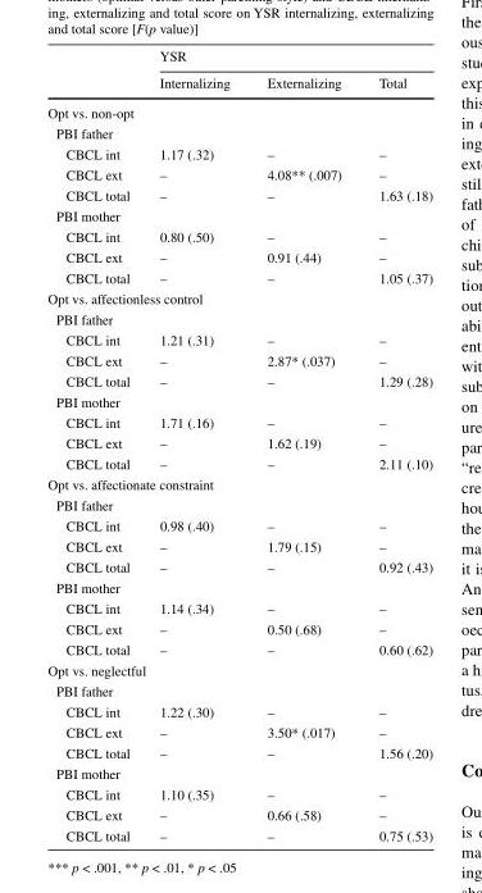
<table><thead><tr><td rowspan="2"></td><td colspan="3">YSR</td></tr><tr><td>Internalizing</td><td>Externalizing</td><td>Total</td></tr></thead><tbody><tr><td colspan="4">Opt vs. non-opt</td></tr><tr><td colspan="4">PBI father</td></tr><tr><td>CBCL int</td><td>1.17 (.32)</td><td>–</td><td>–</td></tr><tr><td>CBCL ext</td><td>–</td><td>4.08** (.007)</td><td>–</td></tr><tr><td>CBCL total</td><td>–</td><td>–</td><td>1.63 (.18)</td></tr><tr><td colspan="4">PBI mother</td></tr><tr><td>CBCL int</td><td>0.80 (.50)</td><td>–</td><td>–</td></tr><tr><td>CBCL ext</td><td>–</td><td>0.91 (.44)</td><td>–</td></tr><tr><td>CBCL total</td><td>–</td><td>–</td><td>1.05 (.37)</td></tr><tr><td colspan="4">Opt vs. affectionless control</td></tr><tr><td colspan="4">PBI father</td></tr><tr><td>CBCL int</td><td>1.21 (.31)</td><td>–</td><td>–</td></tr><tr><td>CBCL ext</td><td>–</td><td>2.87* (.037)</td><td>–</td></tr><tr><td>CBCL total</td><td>–</td><td>–</td><td>1.29 (.28)</td></tr><tr><td colspan="4">PBI mother</td></tr><tr><td>CBCL int</td><td>1.71 (.16)</td><td>–</td><td>–</td></tr><tr><td>CBCL ext</td><td>–</td><td>1.62 (.19)</td><td>–</td></tr><tr><td>CBCL total</td><td>–</td><td>–</td><td>2.11 (.10)</td></tr><tr><td colspan="4">Opt vs. affectionate constraint</td></tr><tr><td colspan="4">PBI father</td></tr><tr><td>CBCL int</td><td>0.98 (.40)</td><td>–</td><td>–</td></tr><tr><td>CBCL ext</td><td>–</td><td>1.79 (.15)</td><td>–</td></tr><tr><td>CBCL total</td><td>–</td><td>–</td><td>0.92 (.43)</td></tr><tr><td colspan="4">PBI mother</td></tr><tr><td>CBCL int</td><td>1.14 (.34)</td><td>–</td><td>–</td></tr><tr><td>CBCL ext</td><td>–</td><td>0.50 (.68)</td><td>–</td></tr><tr><td>CBCL total</td><td>–</td><td>–</td><td>0.60 (.62)</td></tr><tr><td colspan="4">Opt vs. neglectful</td></tr><tr><td colspan="4">PBI father</td></tr><tr><td>CBCL int</td><td>1.22 (.30)</td><td>–</td><td>–</td></tr><tr><td>CBCL ext</td><td>–</td><td>3.50* (.017)</td><td>–</td></tr><tr><td>CBCL total</td><td>–</td><td>–</td><td>1.56 (.20)</td></tr><tr><td colspan="4">PBI mother</td></tr><tr><td>CBCL int</td><td>1.10 (.35)</td><td>–</td><td>–</td></tr><tr><td>CBCL ext</td><td>–</td><td>0.66 (.58)</td><td>–</td></tr><tr><td>CBCL total</td><td>–</td><td>–</td><td>0.75 (.53)</td></tr></tbody></table>